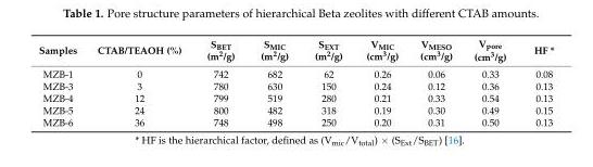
<table><thead><tr><td>Samples</td><td>CTAB/TEAOH (%)</td><td>SBET (m2/g)</td><td>SMIC (m2/g)</td><td>SEXT (m2/g)</td><td>VMIC (cm3/g)</td><td>VMESO (cm3/g)</td><td>Vpore (cm3/g)</td><td>HF *</td></tr></thead><tbody><tr><td>MZB-1</td><td>0</td><td>742</td><td>682</td><td>62</td><td>0.26</td><td>0.06</td><td>0.33</td><td>0.08</td></tr><tr><td>MZB-3</td><td>3</td><td>780</td><td>630</td><td>150</td><td>0.24</td><td>0.12</td><td>0.36</td><td>0.13</td></tr><tr><td>MZB-4</td><td>12</td><td>799</td><td>519</td><td>280</td><td>0.21</td><td>0.33</td><td>0.54</td><td>0.13</td></tr><tr><td>MZB-5</td><td>24</td><td>800</td><td>482</td><td>318</td><td>0.19</td><td>0.30</td><td>0.49</td><td>0.15</td></tr><tr><td>MZB-6</td><td>36</td><td>748</td><td>498</td><td>250</td><td>0.20</td><td>0.31</td><td>0.50</td><td>0.13</td></tr></tbody></table>